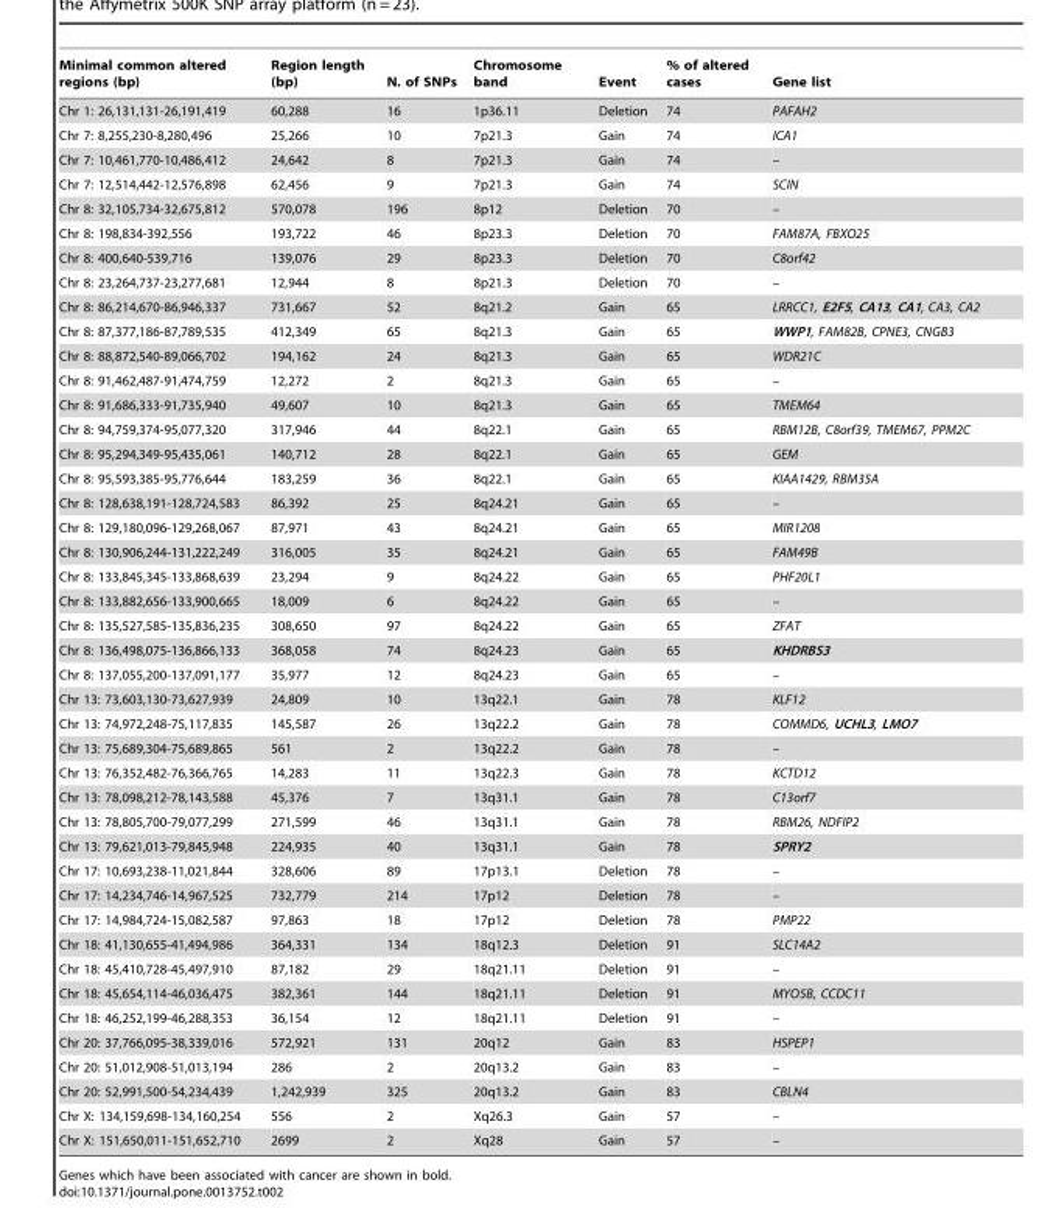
<table><thead><tr><td>Minimal common altered regions (bp)</td><td>Region length (bp)</td><td>N. of SNPs</td><td>Chromosome band</td><td>Event</td><td>% of altered cases</td><td>Gene list</td></tr></thead><tbody><tr><td>Chr 1: 26,131,131-26,191,419</td><td>60,288</td><td>16</td><td>1p36.11</td><td>Deletion</td><td>74</td><td>PAFAH2</td></tr><tr><td>Chr 7: 8,255,230-8,280,496</td><td>25,266</td><td>10</td><td>7p21.3</td><td>Gain</td><td>74</td><td>ICA1</td></tr><tr><td>Chr 7: 10,461,770-10,486,412</td><td>24,642</td><td>8</td><td>7p21.3</td><td>Gain</td><td>74</td><td>–</td></tr><tr><td>Chr 7: 12,514,442-12,576,898</td><td>62,456</td><td>9</td><td>7p21.3</td><td>Gain</td><td>74</td><td>SCIN</td></tr><tr><td>Chr 8: 32,105,734-32,675,812</td><td>570,078</td><td>196</td><td>8p12</td><td>Deletion</td><td>70</td><td>–</td></tr><tr><td>Chr 8: 198,834-392,556</td><td>193,722</td><td>46</td><td>8p23.3</td><td>Deletion</td><td>70</td><td>FAM87A, FBXO25</td></tr><tr><td>Chr 8: 400,640-539,716</td><td>139,076</td><td>29</td><td>8p23.3</td><td>Deletion</td><td>70</td><td>C8orf42</td></tr><tr><td>Chr 8: 23,264,737-23,277,681</td><td>12,944</td><td>8</td><td>8p21.3</td><td>Deletion</td><td>70</td><td>–</td></tr><tr><td>Chr 8: 86,214,670-86,946,337</td><td>731,667</td><td>52</td><td>8q21.2</td><td>Gain</td><td>65</td><td>LRRCC1, E2F5, CA13, CA1, CA3, CA2</td></tr><tr><td>Chr 8: 87,377,186-87,789,535</td><td>412,349</td><td>65</td><td>8q21.3</td><td>Gain</td><td>65</td><td>WWP1, FAM82B, CPNE3, CNGB3</td></tr><tr><td>Chr 8: 88,872,540-89,066,702</td><td>194,162</td><td>24</td><td>8q21.3</td><td>Gain</td><td>65</td><td>WDR21C</td></tr><tr><td>Chr 8: 91,462,487-91,474,759</td><td>12,272</td><td>2</td><td>8q21.3</td><td>Gain</td><td>65</td><td>–</td></tr><tr><td>Chr 8: 91,686,333-91,735,940</td><td>49,607</td><td>10</td><td>8q21.3</td><td>Gain</td><td>65</td><td>TMEM64</td></tr><tr><td>Chr 8: 94,759,374-95,077,320</td><td>317,946</td><td>44</td><td>8q22.1</td><td>Gain</td><td>65</td><td>RBM12B, C8orf39, TMEM67, PPM2C</td></tr><tr><td>Chr 8: 95,294,349-95,435,061</td><td>140,712</td><td>28</td><td>8q22.1</td><td>Gain</td><td>65</td><td>GEM</td></tr><tr><td>Chr 8: 95,593,385-95,776,644</td><td>183,259</td><td>36</td><td>8q22.1</td><td>Gain</td><td>65</td><td>KIAA1429, RBM35A</td></tr><tr><td>Chr 8: 128,638,191-128,724,583</td><td>86,392</td><td>25</td><td>8q24.21</td><td>Gain</td><td>65</td><td>–</td></tr><tr><td>Chr 8: 129,180,096-129,268,067</td><td>87,971</td><td>43</td><td>8q24.21</td><td>Gain</td><td>65</td><td>MIR1208</td></tr><tr><td>Chr 8: 130,906,244-131,222,249</td><td>316,005</td><td>35</td><td>8q24.21</td><td>Gain</td><td>65</td><td>FAM49B</td></tr><tr><td>Chr 8: 133,845,345-133,868,639</td><td>23,294</td><td>9</td><td>8q24.22</td><td>Gain</td><td>65</td><td>PHF20L1</td></tr><tr><td>Chr 8: 133,882,656-133,900,665</td><td>18,009</td><td>6</td><td>8q24.22</td><td>Gain</td><td>65</td><td>–</td></tr><tr><td>Chr 8: 135,527,585-135,836,235</td><td>308,650</td><td>97</td><td>8q24.22</td><td>Gain</td><td>65</td><td>ZFAT</td></tr><tr><td>Chr 8: 136,498,075-136,866,133</td><td>368,058</td><td>74</td><td>8q24.23</td><td>Gain</td><td>65</td><td>KHDRBS3</td></tr><tr><td>Chr 8: 137,055,200-137,091,177</td><td>35,977</td><td>12</td><td>8q24.23</td><td>Gain</td><td>65</td><td>–</td></tr><tr><td>Chr 13: 73,603,130-73,627,939</td><td>24,809</td><td>10</td><td>13q22.1</td><td>Gain</td><td>78</td><td>KLF12</td></tr><tr><td>Chr 13: 74,972,248-75,117,835</td><td>145,587</td><td>26</td><td>13q22.2</td><td>Gain</td><td>78</td><td>COMMD6, UCHL3, LMO7</td></tr><tr><td>Chr 13: 75,689,304-75,689,865</td><td>561</td><td>2</td><td>13q22.2</td><td>Gain</td><td>78</td><td>–</td></tr><tr><td>Chr 13: 76,352,482-76,366,765</td><td>14,283</td><td>11</td><td>13q22.3</td><td>Gain</td><td>78</td><td>KCTD12</td></tr><tr><td>Chr 13: 78,098,212-78,143,588</td><td>45,376</td><td>7</td><td>13q31.1</td><td>Gain</td><td>78</td><td>C13orf7</td></tr><tr><td>Chr 13: 78,805,700-79,077,299</td><td>271,599</td><td>46</td><td>13q31.1</td><td>Gain</td><td>78</td><td>RBM26, NDFIP2</td></tr><tr><td>Chr 13: 79,621,013-79,845,948</td><td>224,935</td><td>40</td><td>13q31.1</td><td>Gain</td><td>78</td><td>SPRY2</td></tr><tr><td>Chr 17: 10,693,238-11,021,844</td><td>328,606</td><td>89</td><td>17p13.1</td><td>Deletion</td><td>78</td><td>–</td></tr><tr><td>Chr 17: 14,234,746-14,967,525</td><td>732,779</td><td>214</td><td>17p12</td><td>Deletion</td><td>78</td><td>–</td></tr><tr><td>Chr 17: 14,984,724-15,082,587</td><td>97,863</td><td>18</td><td>17p12</td><td>Deletion</td><td>78</td><td>PMP22</td></tr><tr><td>Chr 18: 41,130,655-41,494,986</td><td>364,331</td><td>134</td><td>18q12.3</td><td>Deletion</td><td>91</td><td>SLC14A2</td></tr><tr><td>Chr 18: 45,410,728-45,497,910</td><td>87,182</td><td>29</td><td>18q21.11</td><td>Deletion</td><td>91</td><td>–</td></tr><tr><td>Chr 18: 45,654,114-46,036,475</td><td>382,361</td><td>144</td><td>18q21.11</td><td>Deletion</td><td>91</td><td>MYO5B, CCDC11</td></tr><tr><td>Chr 18: 46,252,199-46,288,353</td><td>36,154</td><td>12</td><td>18q21.11</td><td>Deletion</td><td>91</td><td>–</td></tr><tr><td>Chr 20: 37,766,095-38,339,016</td><td>572,921</td><td>131</td><td>20q12</td><td>Gain</td><td>83</td><td>HSPEP1</td></tr><tr><td>Chr 20: 51,012,908-51,013,194</td><td>286</td><td>2</td><td>20q13.2</td><td>Gain</td><td>83</td><td>–</td></tr><tr><td>Chr 20: 52,991,500-54,234,439</td><td>1,242,939</td><td>325</td><td>20q13.2</td><td>Gain</td><td>83</td><td>CBLN4</td></tr><tr><td>Chr X: 134,159,698-134,160,254</td><td>556</td><td>2</td><td>Xq26.3</td><td>Gain</td><td>57</td><td>–</td></tr><tr><td>Chr X: 151,650,011-151,652,710</td><td>2699</td><td>2</td><td>Xq28</td><td>Gain</td><td>57</td><td>–</td></tr></tbody></table>